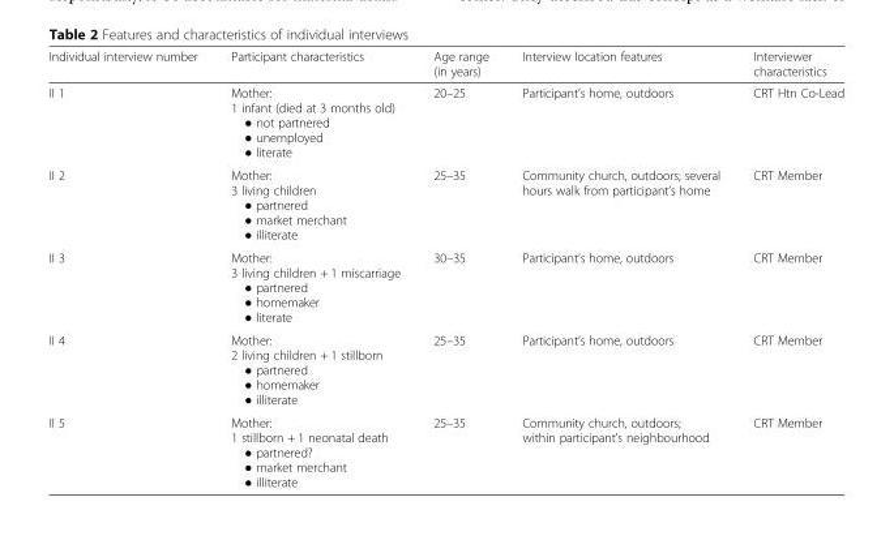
<table><thead><tr><td>Individual interview number</td><td>Participant characteristics</td><td>Age range (in years)</td><td>Interview location features</td><td>Interviewer characteristics</td></tr></thead><tbody><tr><td>II 1</td><td>Mother: 1 infant (died at 3 months old) ● not partnered ● unemployed ● literate</td><td>20–25</td><td>Participant’s home, outdoors</td><td>CRT Htn Co-Lead</td></tr><tr><td>II 2</td><td>Mother: 3 living children ● partnered ● market merchant ● illiterate</td><td>25–35</td><td>Community church, outdoors; several hours walk from participant’s home</td><td>CRT Member</td></tr><tr><td>II 3</td><td>Mother: 3 living children + 1 miscarriage ● partnered ● homemaker ● literate</td><td>30–35</td><td>Participant’s home, outdoors</td><td>CRT Member</td></tr><tr><td>II 4</td><td>Mother: 2 living children + 1 stillborn ● partnered ● homemaker ● illiterate</td><td>25–35</td><td>Participant’s home, outdoors</td><td>CRT Member</td></tr><tr><td>II 5</td><td>Mother: 1 stillborn + 1 neonatal death ● partnered? ● market merchant ● illiterate</td><td>25–35</td><td>Community church, outdoors; within participant’s neighbourhood</td><td>CRT Member</td></tr></tbody></table>